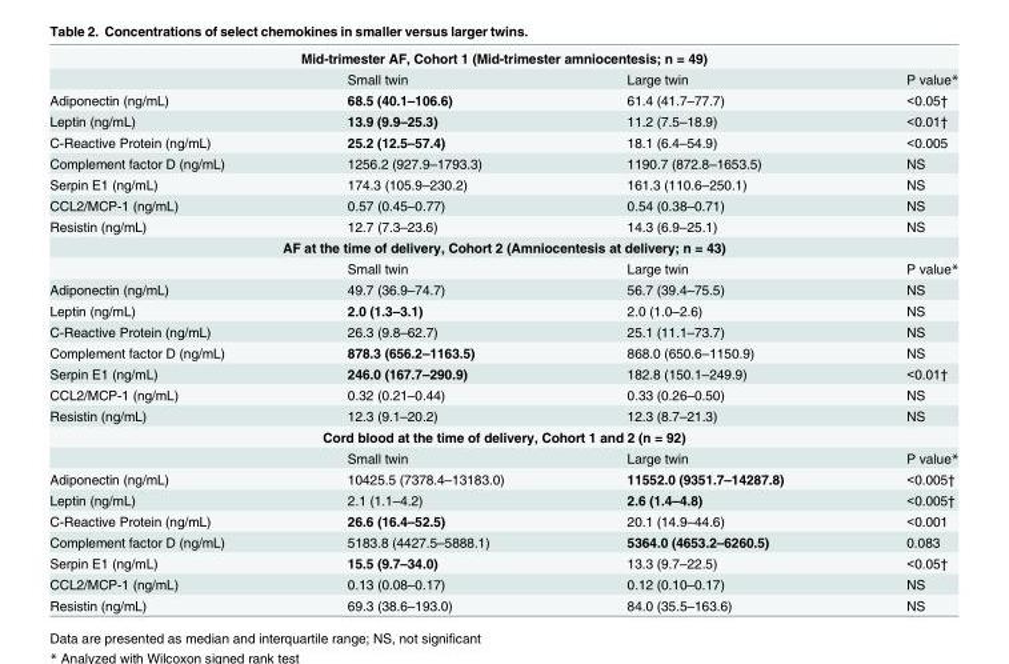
<table><tbody><tr><td colspan="4">Mid-trimester AF, Cohort 1 (Mid-trimester amniocentesis; n = 49)</td></tr><tr><td></td><td>Small twin</td><td>Large twin</td><td>P value*</td></tr><tr><td>Adiponectin (ng/mL)</td><td>68.5 (40.1–106.6)</td><td>61.4 (41.7–77.7)</td><td>&lt;0.05†</td></tr><tr><td>Leptin (ng/mL)</td><td>13.9 (9.9–25.3)</td><td>11.2 (7.5–18.9)</td><td>&lt;0.01†</td></tr><tr><td>C-Reactive Protein (ng/mL)</td><td>25.2 (12.5–57.4)</td><td>18.1 (6.4–54.9)</td><td>&lt;0.005</td></tr><tr><td>Complement factor D (ng/mL)</td><td>1256.2 (927.9–1793.3)</td><td>1190.7 (872.8–1653.5)</td><td>NS</td></tr><tr><td>Serpin E1 (ng/mL)</td><td>174.3 (105.9–230.2)</td><td>161.3 (110.6–250.1)</td><td>NS</td></tr><tr><td>CCL2/MCP-1 (ng/mL)</td><td>0.57 (0.45–0.77)</td><td>0.54 (0.38–0.71)</td><td>NS</td></tr><tr><td>Resistin (ng/mL)</td><td>12.7 (7.3–23.6)</td><td>14.3 (6.9–25.1)</td><td>NS</td></tr><tr><td colspan="4">AF at the time of delivery, Cohort 2 (Amniocentesis at delivery; n = 43)</td></tr><tr><td></td><td>Small twin</td><td>Large twin</td><td>P value*</td></tr><tr><td>Adiponectin (ng/mL)</td><td>49.7 (36.9–74.7)</td><td>56.7 (39.4–75.5)</td><td>NS</td></tr><tr><td>Leptin (ng/mL)</td><td>2.0 (1.3–3.1)</td><td>2.0 (1.0–2.6)</td><td>NS</td></tr><tr><td>C-Reactive Protein (ng/mL)</td><td>26.3 (9.8–62.7)</td><td>25.1 (11.1–73.7)</td><td>NS</td></tr><tr><td>Complement factor D (ng/mL)</td><td>878.3 (656.2–1163.5)</td><td>868.0 (650.6–1150.9)</td><td>NS</td></tr><tr><td>Serpin E1 (ng/mL)</td><td>246.0 (167.7–290.9)</td><td>182.8 (150.1–249.9)</td><td>&lt;0.01†</td></tr><tr><td>CCL2/MCP-1 (ng/mL)</td><td>0.32 (0.21–0.44)</td><td>0.33 (0.26–0.50)</td><td>NS</td></tr><tr><td>Resistin (ng/mL)</td><td>12.3 (9.1–20.2)</td><td>12.3 (8.7–21.3)</td><td>NS</td></tr><tr><td colspan="4">Cord blood at the time of delivery, Cohort 1 and 2 (n = 92)</td></tr><tr><td></td><td>Small twin</td><td>Large twin</td><td>P value*</td></tr><tr><td>Adiponectin (ng/mL)</td><td>10425.5 (7378.4–13183.0)</td><td>11552.0 (9351.7–14287.8)</td><td>&lt;0.005†</td></tr><tr><td>Leptin (ng/mL)</td><td>2.1 (1.1–4.2)</td><td>2.6 (1.4–4.8)</td><td>&lt;0.005†</td></tr><tr><td>C-Reactive Protein (ng/mL)</td><td>26.6 (16.4–52.5)</td><td>20.1 (14.9–44.6)</td><td>&lt;0.001</td></tr><tr><td>Complement factor D (ng/mL)</td><td>5183.8 (4427.5–5888.1)</td><td>5364.0 (4653.2–6260.5)</td><td>0.083</td></tr><tr><td>Serpin E1 (ng/mL)</td><td>15.5 (9.7–34.0)</td><td>13.3 (9.7–22.5)</td><td>&lt;0.05†</td></tr><tr><td>CCL2/MCP-1 (ng/mL)</td><td>0.13 (0.08–0.17)</td><td>0.12 (0.10–0.17)</td><td>NS</td></tr><tr><td>Resistin (ng/mL)</td><td>69.3 (38.6–193.0)</td><td>84.0 (35.5–163.6)</td><td>NS</td></tr></tbody></table>